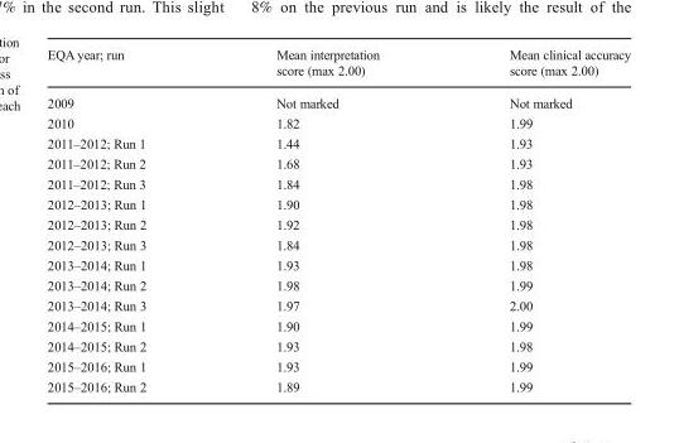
<table><thead><tr><td>EQA year; run</td><td>Mean interpretation score (max 2.00)</td><td>Mean clinical accuracy score (max 2.00)</td></tr></thead><tbody><tr><td>2009</td><td>Not marked</td><td>Not marked</td></tr><tr><td>2010</td><td>1.82</td><td>1.99</td></tr><tr><td>2011–2012; Run 1</td><td>1.44</td><td>1.93</td></tr><tr><td>2011–2012; Run 2</td><td>1.68</td><td>1.93</td></tr><tr><td>2011–2012; Run 3</td><td>1.84</td><td>1.98</td></tr><tr><td>2012–2013; Run 1</td><td>1.90</td><td>1.98</td></tr><tr><td>2012–2013; Run 2</td><td>1.92</td><td>1.98</td></tr><tr><td>2012–2013; Run 3</td><td>1.84</td><td>1.98</td></tr><tr><td>2013–2014; Run 1</td><td>1.93</td><td>1.98</td></tr><tr><td>2013–2014; Run 2</td><td>1.98</td><td>1.99</td></tr><tr><td>2013–2014; Run 3</td><td>1.97</td><td>2.00</td></tr><tr><td>2014–2015; Run 1</td><td>1.90</td><td>1.99</td></tr><tr><td>2014–2015; Run 2</td><td>1.93</td><td>1.98</td></tr><tr><td>2015–2016; Run 1</td><td>1.93</td><td>1.99</td></tr><tr><td>2015–2016; Run 2</td><td>1.89</td><td>1.99</td></tr></tbody></table>